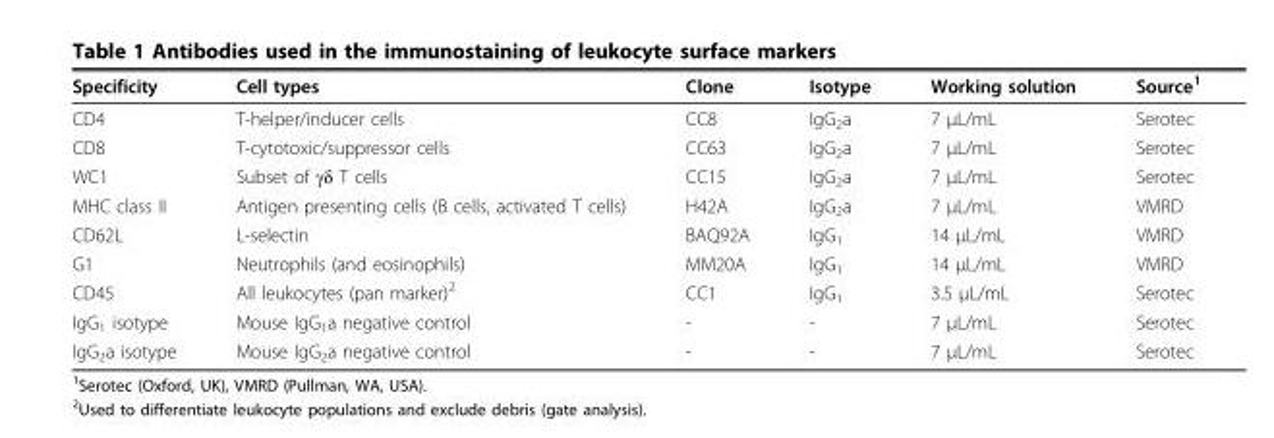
<table><tbody><tr><td>Specificity</td><td>Cell types</td><td>Clone</td><td>Isotype</td><td>Working solution</td><td>Source<sup>1</sup></td></tr><tr><td>CD4</td><td>T-helper/inducer cells</td><td>CC8</td><td>IgG<sub>2</sub>a</td><td>7 μL/mL</td><td>Serotec</td></tr><tr><td>CD8</td><td>T-cytotoxic/suppressor cells</td><td>CC63</td><td>IgG<sub>2</sub>a</td><td>7 μL/mL</td><td>Serotec</td></tr><tr><td>WC1</td><td>Subset of γδ T cells</td><td>CC15</td><td>IgG<sub>2</sub>a</td><td>7 μL/mL</td><td>Serotec</td></tr><tr><td>MHC class II</td><td>Antigen presenting cells (B cells, activated T cells)</td><td>H42A</td><td>IgG<sub>2</sub>a</td><td>7 μL/mL</td><td>VMRD</td></tr><tr><td>CD62L</td><td>L-selectin</td><td>BAQ92A</td><td>IgG<sub>1</sub></td><td>14 μL/mL</td><td>VMRD</td></tr><tr><td>G1</td><td>Neutrophils (and eosinophils)</td><td>MM20A</td><td>IgG<sub>1</sub></td><td>14 μL/mL</td><td>VMRD</td></tr><tr><td>CD45</td><td>All leukocytes (pan marker)<sup>2</sup></td><td>CC1</td><td>IgG<sub>1</sub></td><td>3.5 μL/mL</td><td>Serotec</td></tr><tr><td>IgG<sub>1</sub> isotype</td><td>Mouse IgG<sub>1</sub>a negative control</td><td>-</td><td>-</td><td>7 μL/mL</td><td>Serotec</td></tr><tr><td>IgG<sub>2</sub>a isotype</td><td>Mouse IgG<sub>2</sub>a negative control</td><td>-</td><td>-</td><td>7 μL/mL</td><td>Serotec</td></tr></tbody></table>